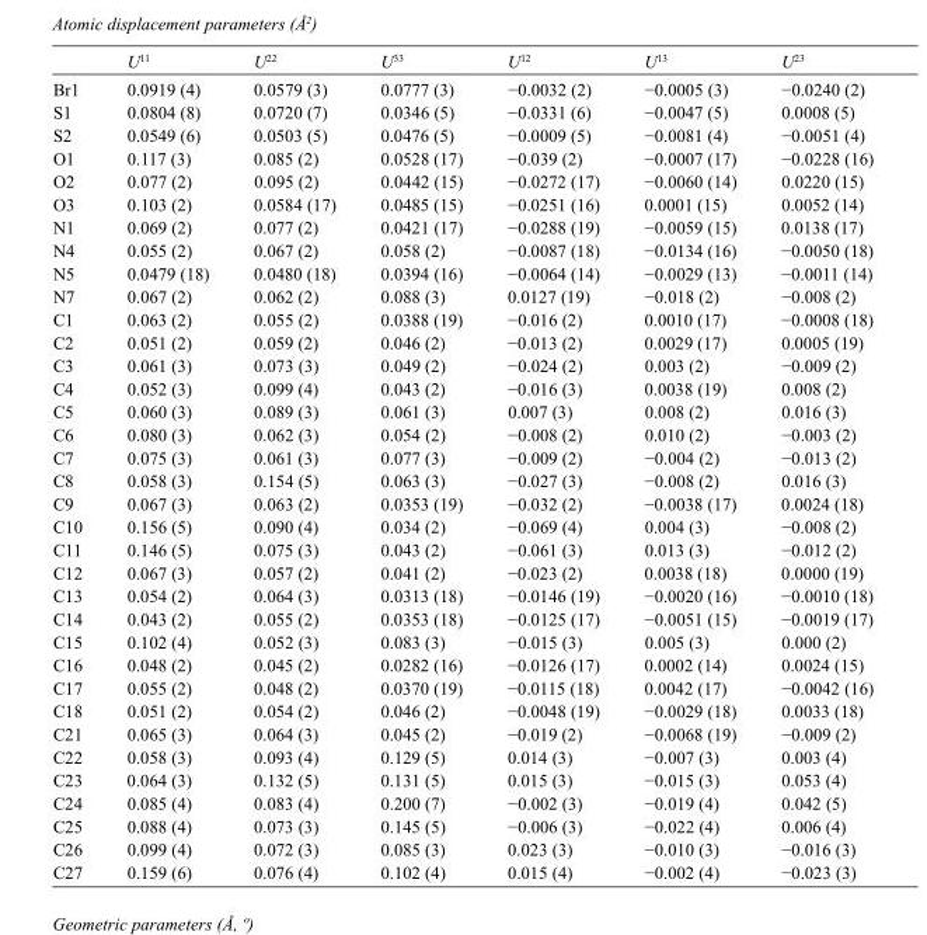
<table><thead><tr><td></td><td>U<sup>11</sup></td><td>U<sup>22</sup></td><td>U<sup>33</sup></td><td>U<sup>12</sup></td><td>U<sup>13</sup></td><td>U<sup>23</sup></td></tr></thead><tbody><tr><td>Br1</td><td>0.0919 (4)</td><td>0.0579 (3)</td><td>0.0777 (3)</td><td>−0.0032 (2)</td><td>−0.0005 (3)</td><td>−0.0240 (2)</td></tr><tr><td>S1</td><td>0.0804 (8)</td><td>0.0720 (7)</td><td>0.0346 (5)</td><td>−0.0331 (6)</td><td>−0.0047 (5)</td><td>0.0008 (5)</td></tr><tr><td>S2</td><td>0.0549 (6)</td><td>0.0503 (5)</td><td>0.0476 (5)</td><td>−0.0009 (5)</td><td>−0.0081 (4)</td><td>−0.0051 (4)</td></tr><tr><td>O1</td><td>0.117 (3)</td><td>0.085 (2)</td><td>0.0528 (17)</td><td>−0.039 (2)</td><td>−0.0007 (17)</td><td>−0.0228 (16)</td></tr><tr><td>O2</td><td>0.077 (2)</td><td>0.095 (2)</td><td>0.0442 (15)</td><td>−0.0272 (17)</td><td>−0.0060 (14)</td><td>0.0220 (15)</td></tr><tr><td>O3</td><td>0.103 (2)</td><td>0.0584 (17)</td><td>0.0485 (15)</td><td>−0.0251 (16)</td><td>0.0001 (15)</td><td>0.0052 (14)</td></tr><tr><td>N1</td><td>0.069 (2)</td><td>0.077 (2)</td><td>0.0421 (17)</td><td>−0.0288 (19)</td><td>−0.0059 (15)</td><td>0.0138 (17)</td></tr><tr><td>N4</td><td>0.055 (2)</td><td>0.067 (2)</td><td>0.058 (2)</td><td>−0.0087 (18)</td><td>−0.0134 (16)</td><td>−0.0050 (18)</td></tr><tr><td>N5</td><td>0.0479 (18)</td><td>0.0480 (18)</td><td>0.0394 (16)</td><td>−0.0064 (14)</td><td>−0.0029 (13)</td><td>−0.0011 (14)</td></tr><tr><td>N7</td><td>0.067 (2)</td><td>0.062 (2)</td><td>0.088 (3)</td><td>0.0127 (19)</td><td>−0.018 (2)</td><td>−0.008 (2)</td></tr><tr><td>C1</td><td>0.063 (2)</td><td>0.055 (2)</td><td>0.0388 (19)</td><td>−0.016 (2)</td><td>0.0010 (17)</td><td>−0.0008 (18)</td></tr><tr><td>C2</td><td>0.051 (2)</td><td>0.059 (2)</td><td>0.046 (2)</td><td>−0.013 (2)</td><td>0.0029 (17)</td><td>0.0005 (19)</td></tr><tr><td>C3</td><td>0.061 (3)</td><td>0.073 (3)</td><td>0.049 (2)</td><td>−0.024 (2)</td><td>0.003 (2)</td><td>−0.009 (2)</td></tr><tr><td>C4</td><td>0.052 (3)</td><td>0.099 (4)</td><td>0.043 (2)</td><td>−0.016 (3)</td><td>0.0038 (19)</td><td>0.008 (2)</td></tr><tr><td>C5</td><td>0.060 (3)</td><td>0.089 (3)</td><td>0.061 (3)</td><td>0.007 (3)</td><td>0.008 (2)</td><td>0.016 (3)</td></tr><tr><td>C6</td><td>0.080 (3)</td><td>0.062 (3)</td><td>0.054 (2)</td><td>−0.008 (2)</td><td>0.010 (2)</td><td>−0.003 (2)</td></tr><tr><td>C7</td><td>0.075 (3)</td><td>0.061 (3)</td><td>0.077 (3)</td><td>−0.009 (2)</td><td>−0.004 (2)</td><td>−0.013 (2)</td></tr><tr><td>C8</td><td>0.058 (3)</td><td>0.154 (5)</td><td>0.063 (3)</td><td>−0.027 (3)</td><td>−0.008 (2)</td><td>0.016 (3)</td></tr><tr><td>C9</td><td>0.067 (3)</td><td>0.063 (2)</td><td>0.0353 (19)</td><td>−0.032 (2)</td><td>−0.0038 (17)</td><td>0.0024 (18)</td></tr><tr><td>C10</td><td>0.156 (5)</td><td>0.090 (4)</td><td>0.034 (2)</td><td>−0.069 (4)</td><td>0.004 (3)</td><td>−0.008 (2)</td></tr><tr><td>C11</td><td>0.146 (5)</td><td>0.075 (3)</td><td>0.043 (2)</td><td>−0.061 (3)</td><td>0.013 (3)</td><td>−0.012 (2)</td></tr><tr><td>C12</td><td>0.067 (3)</td><td>0.057 (2)</td><td>0.041 (2)</td><td>−0.023 (2)</td><td>0.0038 (18)</td><td>0.0000 (19)</td></tr><tr><td>C13</td><td>0.054 (2)</td><td>0.064 (3)</td><td>0.0313 (18)</td><td>−0.0146 (19)</td><td>−0.0020 (16)</td><td>−0.0010 (18)</td></tr><tr><td>C14</td><td>0.043 (2)</td><td>0.055 (2)</td><td>0.0353 (18)</td><td>−0.0125 (17)</td><td>−0.0051 (15)</td><td>−0.0019 (17)</td></tr><tr><td>C15</td><td>0.102 (4)</td><td>0.052 (3)</td><td>0.083 (3)</td><td>−0.015 (3)</td><td>0.005 (3)</td><td>0.000 (2)</td></tr><tr><td>C16</td><td>0.048 (2)</td><td>0.045 (2)</td><td>0.0282 (16)</td><td>−0.0126 (17)</td><td>0.0002 (14)</td><td>0.0024 (15)</td></tr><tr><td>C17</td><td>0.055 (2)</td><td>0.048 (2)</td><td>0.0370 (19)</td><td>−0.0115 (18)</td><td>0.0042 (17)</td><td>−0.0042 (16)</td></tr><tr><td>C18</td><td>0.051 (2)</td><td>0.054 (2)</td><td>0.046 (2)</td><td>−0.0048 (19)</td><td>−0.0029 (18)</td><td>0.0033 (18)</td></tr><tr><td>C21</td><td>0.065 (3)</td><td>0.064 (3)</td><td>0.045 (2)</td><td>−0.019 (2)</td><td>−0.0068 (19)</td><td>−0.009 (2)</td></tr><tr><td>C22</td><td>0.058 (3)</td><td>0.093 (4)</td><td>0.129 (5)</td><td>0.014 (3)</td><td>−0.007 (3)</td><td>0.003 (4)</td></tr><tr><td>C23</td><td>0.064 (3)</td><td>0.132 (5)</td><td>0.131 (5)</td><td>0.015 (3)</td><td>−0.015 (3)</td><td>0.053 (4)</td></tr><tr><td>C24</td><td>0.085 (4)</td><td>0.083 (4)</td><td>0.200 (7)</td><td>−0.002 (3)</td><td>−0.019 (4)</td><td>0.042 (5)</td></tr><tr><td>C25</td><td>0.088 (4)</td><td>0.073 (3)</td><td>0.145 (5)</td><td>−0.006 (3)</td><td>−0.022 (4)</td><td>0.006 (4)</td></tr><tr><td>C26</td><td>0.099 (4)</td><td>0.072 (3)</td><td>0.085 (3)</td><td>0.023 (3)</td><td>−0.010 (3)</td><td>−0.016 (3)</td></tr><tr><td>C27</td><td>0.159 (6)</td><td>0.076 (4)</td><td>0.102 (4)</td><td>0.015 (4)</td><td>−0.002 (4)</td><td>−0.023 (3)</td></tr></tbody></table>